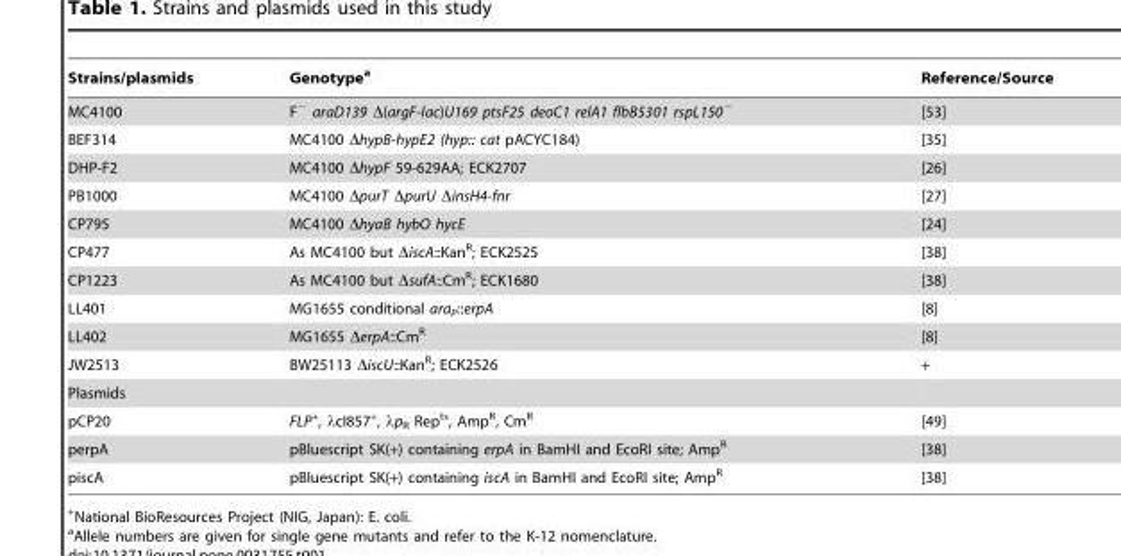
<table><thead><tr><td>Strains/plasmids</td><td>Genotype<sup>a</sup></td><td>Reference/Source</td></tr></thead><tbody><tr><td>MC4100</td><td>F<sup>−</sup> araD139 Δ(argF-lac)U169 ptsF25 deoC1 relA1 flbB5301 rspL150<sup>−</sup></td><td>[53]</td></tr><tr><td>BEF314</td><td>MC4100 ΔhypB-hypE2 (hyp:: cat pACYC184)</td><td>[35]</td></tr><tr><td>DHP-F2</td><td>MC4100 ΔhypF 59-629AA; ECK2707</td><td>[26]</td></tr><tr><td>PB1000</td><td>MC4100 ΔpurT ΔpurU ΔinsH4-fnr</td><td>[27]</td></tr><tr><td>CP795</td><td>MC4100 ΔhyaB hybO hycE</td><td>[24]</td></tr><tr><td>CP477</td><td>As MC4100 but ΔiscA::Kan<sup>R</sup>; ECK2525</td><td>[38]</td></tr><tr><td>CP1223</td><td>As MC4100 but ΔsufA::Cm<sup>R</sup>; ECK1680</td><td>[38]</td></tr><tr><td>LL401</td><td>MG1655 conditional ara<sub>P</sub>::erpA</td><td>[8]</td></tr><tr><td>LL402</td><td>MG1655 ΔerpA::Cm<sup>R</sup></td><td>[8]</td></tr><tr><td>JW2513</td><td>BW25113 ΔiscU::Kan<sup>R</sup>; ECK2526</td><td>+</td></tr><tr><td colspan="3">Plasmids</td></tr><tr><td>pCP20</td><td>FLP+, λcI857+, λp<sub>R</sub> Rep<sup>ts</sup>, Amp<sup>R</sup>, Cm<sup>R</sup></td><td>[49]</td></tr><tr><td>perpA</td><td>pBluescript SK(+) containing erpA in BamHI and EcoRI site; Amp<sup>R</sup></td><td>[38]</td></tr><tr><td>piscA</td><td>pBluescript SK(+) containing iscA in BamHI and EcoRI site; Amp<sup>R</sup></td><td>[38]</td></tr></tbody></table>